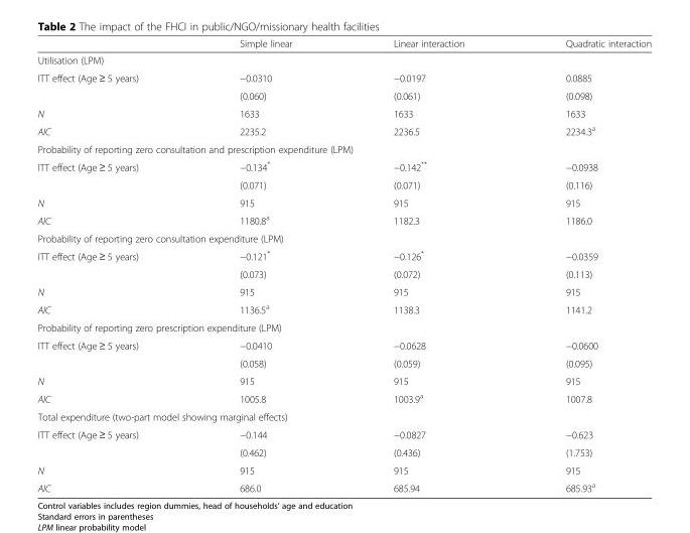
<table><thead><tr><td></td><td>Simple linear</td><td>Linear interaction</td><td>Quadratic interaction</td></tr></thead><tbody><tr><td colspan="4">Utilisation (LPM)</td></tr><tr><td rowspan="2">ITT effect (Age ≥ 5 years)</td><td>−0.0310</td><td>−0.0197</td><td>0.0885</td></tr><tr><td>(0.060)</td><td>(0.061)</td><td>(0.098)</td></tr><tr><td>N</td><td>1633</td><td>1633</td><td>1633</td></tr><tr><td>AIC</td><td>2235.2</td><td>2236.5</td><td>2234.3<sup>a</sup></td></tr><tr><td colspan="4">Probability of reporting zero consultation and prescription expenditure (LPM)</td></tr><tr><td rowspan="2">ITT effect (Age ≥ 5 years)</td><td>−0.134*</td><td>−0.142**</td><td>−0.0938</td></tr><tr><td>(0.071)</td><td>(0.071)</td><td>(0.116)</td></tr><tr><td>N</td><td>915</td><td>915</td><td>915</td></tr><tr><td>AIC</td><td>1180.8<sup>a</sup></td><td>1182.3</td><td>1186.0</td></tr><tr><td colspan="4">Probability of reporting zero consultation expenditure (LPM)</td></tr><tr><td rowspan="2">ITT effect (Age ≥ 5 years)</td><td>−0.121*</td><td>−0.126*</td><td>−0.0359</td></tr><tr><td>(0.073)</td><td>(0.072)</td><td>(0.113)</td></tr><tr><td>N</td><td>915</td><td>915</td><td>915</td></tr><tr><td>AIC</td><td>1136.5<sup>a</sup></td><td>1138.3</td><td>1141.2</td></tr><tr><td colspan="4">Probability of reporting zero prescription expenditure (LPM)</td></tr><tr><td rowspan="2">ITT effect (Age ≥ 5 years)</td><td>−0.0410</td><td>−0.0628</td><td>−0.0600</td></tr><tr><td>(0.058)</td><td>(0.059)</td><td>(0.095)</td></tr><tr><td>N</td><td>915</td><td>915</td><td>915</td></tr><tr><td>AIC</td><td>1005.8</td><td>1003.9<sup>a</sup></td><td>1007.8</td></tr><tr><td colspan="4">Total expenditure (two-part model showing marginal effects)</td></tr><tr><td rowspan="2">ITT effect (Age ≥ 5 years)</td><td>−0.144</td><td>−0.0827</td><td>−0.623</td></tr><tr><td>(0.462)</td><td>(0.436)</td><td>(1.753)</td></tr><tr><td>N</td><td>915</td><td>915</td><td>915</td></tr><tr><td>AIC</td><td>686.0</td><td>685.94</td><td>685.93<sup>a</sup></td></tr></tbody></table>